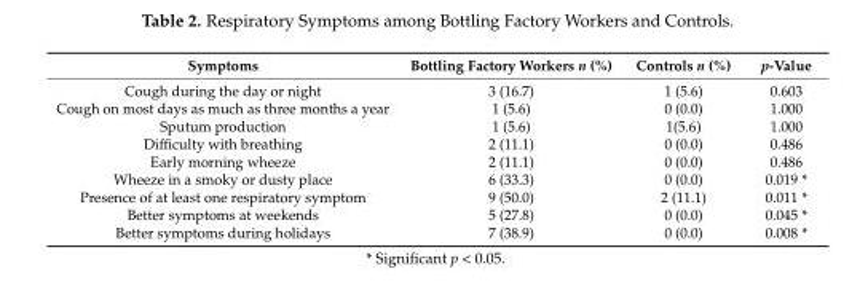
<table><thead><tr><td>Symptoms</td><td>Bottling Factory Workers n (%)</td><td>Controls n (%)</td><td>p-Value</td></tr></thead><tbody><tr><td>Cough during the day or night</td><td>3 (16.7)</td><td>1 (5.6)</td><td>0.603</td></tr><tr><td>Cough on most days as much as three months a year</td><td>1 (5.6)</td><td>0 (0.0)</td><td>1.000</td></tr><tr><td>Sputum production</td><td>1 (5.6)</td><td>1(5.6)</td><td>1.000</td></tr><tr><td>Difficulty with breathing</td><td>2 (11.1)</td><td>0 (0.0)</td><td>0.486</td></tr><tr><td>Early morning wheeze</td><td>2 (11.1)</td><td>0 (0.0)</td><td>0.486</td></tr><tr><td>Wheeze in a smoky or dusty place</td><td>6 (33.3)</td><td>0 (0.0)</td><td>0.019 *</td></tr><tr><td>Presence of at least one respiratory symptom</td><td>9 (50.0)</td><td>2 (11.1)</td><td>0.011 *</td></tr><tr><td>Better symptoms at weekends</td><td>5 (27.8)</td><td>0 (0.0)</td><td>0.045 *</td></tr><tr><td>Better symptoms during holidays</td><td>7 (38.9)</td><td>0 (0.0)</td><td>0.008 *</td></tr></tbody></table>